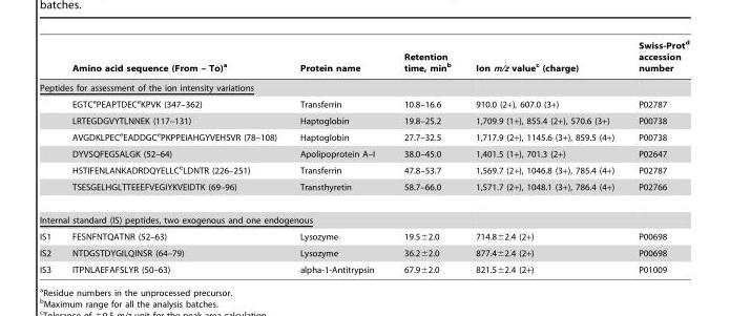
<table><thead><tr><td></td><td>Amino acid sequence (From – To)<sup>a</sup></td><td>Protein name</td><td>Retention time, min<sup>b</sup></td><td>Ion m/z value<sup>c</sup> (charge)</td><td>Swiss-Prot<sup>d</sup> accession number</td></tr></thead><tbody><tr><td colspan="6">Peptides for assessment of the ion intensity variations</td></tr><tr><td></td><td>EGTC<sup>e</sup>PEAPTDEC<sup>e</sup>KPVK (347–362)</td><td>Transferrin</td><td>10.8–16.6</td><td>910.0 (2+), 607.0 (3+)</td><td>P02787</td></tr><tr><td></td><td>LRTEGDGVYTLNNEK (117–131)</td><td>Haptoglobin</td><td>19.8–25.2</td><td>1,709.9 (1+), 855.4 (2+), 570.6 (3+)</td><td>P00738</td></tr><tr><td></td><td>AVGDKLPEC<sup>e</sup>EADDGC<sup>e</sup>PKPPEIAHGYVEHSVR (78–108)</td><td>Haptoglobin</td><td>27.7–32.5</td><td>1,717.9 (2+), 1145.6 (3+), 859.5 (4+)</td><td>P00738</td></tr><tr><td></td><td>DYVSQFEGSALGK (52–64)</td><td>Apolipoprotein A–I</td><td>38.0–45.0</td><td>1,401.5 (1+), 701.3 (2+)</td><td>P02647</td></tr><tr><td></td><td>HSTIFENLANKADRDQYELLC<sup>e</sup>LDNTR (226–251)</td><td>Transferrin</td><td>47.8–53.7</td><td>1,569.7 (2+), 1046.8 (3+), 785.4 (4+)</td><td>P02787</td></tr><tr><td></td><td>TSESGELHGLTTEEEFVEGIYKVEIDTK (69–96)</td><td>Transthyretin</td><td>58.7–66.0</td><td>1,571.7 (2+), 1048.1 (3+), 786.4 (4+)</td><td>P02766</td></tr><tr><td colspan="6">Internal standard (IS) peptides, two exogenous and one endogenous</td></tr><tr><td>IS1</td><td>FESNFNTQATNR (52–63)</td><td>Lysozyme</td><td>19.5±2.0</td><td>714.8±2.4 (2+)</td><td>P00698</td></tr><tr><td>IS2</td><td>NTDGSTDYGILQINSR (64–79)</td><td>Lysozyme</td><td>36.2±2.0</td><td>877.4±2.4 (2+)</td><td>P00698</td></tr><tr><td>IS3</td><td>ITPNLAEFAFSLYR (50–63)</td><td>alpha-1-Antitrypsin</td><td>67.9±2.0</td><td>821.5±2.4 (2+)</td><td>P01009</td></tr></tbody></table>